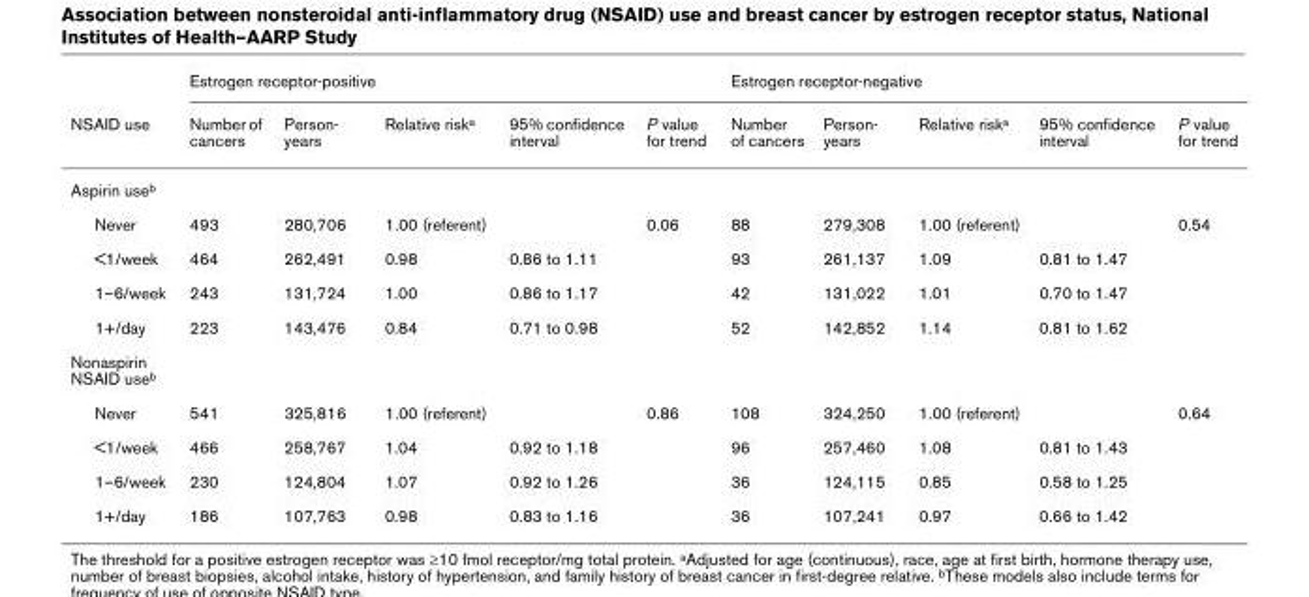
<table><thead><tr><td rowspan="2">NSAID use</td><td colspan="5">Estrogen receptor-positive</td><td colspan="5">Estrogen receptor-negative</td></tr><tr><td>Number of cancers</td><td>Person- years</td><td>Relative risk<sup>a</sup></td><td>95% confidence interval</td><td>P value for trend</td><td>Number of cancers</td><td>Person- years</td><td>Relative risk<sup>a</sup></td><td>95% confidence interval</td><td>P value for trend</td></tr></thead><tbody><tr><td colspan="11">Aspirin use<sup>b</sup></td></tr><tr><td>Never</td><td>493</td><td>280,706</td><td>1.00 (referent)</td><td></td><td>0.06</td><td>88</td><td>279,308</td><td>1.00 (referent)</td><td></td><td>0.54</td></tr><tr><td>&lt;1/week</td><td>464</td><td>262,491</td><td>0.98</td><td>0.86 to 1.11</td><td></td><td>93</td><td>261,137</td><td>1.09</td><td>0.81 to 1.47</td><td></td></tr><tr><td>1–6/week</td><td>243</td><td>131,724</td><td>1.00</td><td>0.86 to 1.17</td><td></td><td>42</td><td>131,022</td><td>1.01</td><td>0.70 to 1.47</td><td></td></tr><tr><td>1+/day</td><td>223</td><td>143,476</td><td>0.84</td><td>0.71 to 0.98</td><td></td><td>52</td><td>142,852</td><td>1.14</td><td>0.81 to 1.62</td><td></td></tr><tr><td colspan="11">Nonaspirin NSAID use<sup>b</sup></td></tr><tr><td>Never</td><td>541</td><td>325,816</td><td>1.00 (referent)</td><td></td><td>0.86</td><td>108</td><td>324,250</td><td>1.00 (referent)</td><td></td><td>0.64</td></tr><tr><td>&lt;1/week</td><td>466</td><td>258,767</td><td>1.04</td><td>0.92 to 1.18</td><td></td><td>96</td><td>257,460</td><td>1.08</td><td>0.81 to 1.43</td><td></td></tr><tr><td>1–6/week</td><td>230</td><td>124,804</td><td>1.07</td><td>0.92 to 1.26</td><td></td><td>36</td><td>124,115</td><td>0.85</td><td>0.58 to 1.25</td><td></td></tr><tr><td>1+/day</td><td>186</td><td>107,763</td><td>0.98</td><td>0.83 to 1.16</td><td></td><td>36</td><td>107,241</td><td>0.97</td><td>0.66 to 1.42</td><td></td></tr></tbody></table>